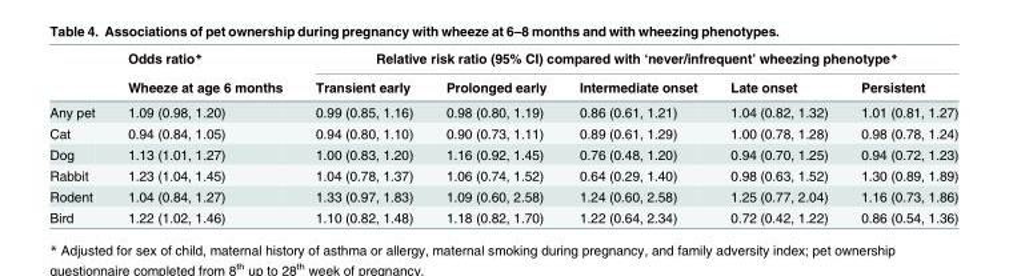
<table><thead><tr><td rowspan="2"></td><td rowspan="2">Odds ratio* Wheeze at age 6 months</td><td colspan="5">Relative risk ratio (95% CI) compared with ‘never/infrequent’ wheezing phenotype*</td></tr><tr><td>Transient early</td><td>Prolonged early</td><td>Intermediate onset</td><td>Late onset</td><td>Persistent</td></tr></thead><tbody><tr><td>Any pet</td><td>1.09 (0.98, 1.20)</td><td>0.99 (0.85, 1.16)</td><td>0.98 (0.80, 1.19)</td><td>0.86 (0.61, 1.21)</td><td>1.04 (0.82, 1.32)</td><td>1.01 (0.81, 1.27)</td></tr><tr><td>Cat</td><td>0.94 (0.84, 1.05)</td><td>0.94 (0.80, 1.10)</td><td>0.90 (0.73, 1.11)</td><td>0.89 (0.61, 1.29)</td><td>1.00 (0.78, 1.28)</td><td>0.98 (0.78, 1.24)</td></tr><tr><td>Dog</td><td>1.13 (1.01, 1.27)</td><td>1.00 (0.83, 1.20)</td><td>1.16 (0.92, 1.45)</td><td>0.76 (0.48, 1.20)</td><td>0.94 (0.70, 1.25)</td><td>0.94 (0.72, 1.23)</td></tr><tr><td>Rabbit</td><td>1.23 (1.04, 1.45)</td><td>1.04 (0.78, 1.37)</td><td>1.06 (0.74, 1.52)</td><td>0.64 (0.29, 1.40)</td><td>0.98 (0.63, 1.52)</td><td>1.30 (0.89, 1.89)</td></tr><tr><td>Rodent</td><td>1.04 (0.84, 1.27)</td><td>1.33 (0.97, 1.83)</td><td>1.09 (0.60, 2.58)</td><td>1.24 (0.60, 2.58)</td><td>1.25 (0.77, 2.04)</td><td>1.16 (0.73, 1.86)</td></tr><tr><td>Bird</td><td>1.22 (1.02, 1.46)</td><td>1.10 (0.82, 1.48)</td><td>1.18 (0.82, 1.70)</td><td>1.22 (0.64, 2.34)</td><td>0.72 (0.42, 1.22)</td><td>0.86 (0.54, 1.36)</td></tr></tbody></table>